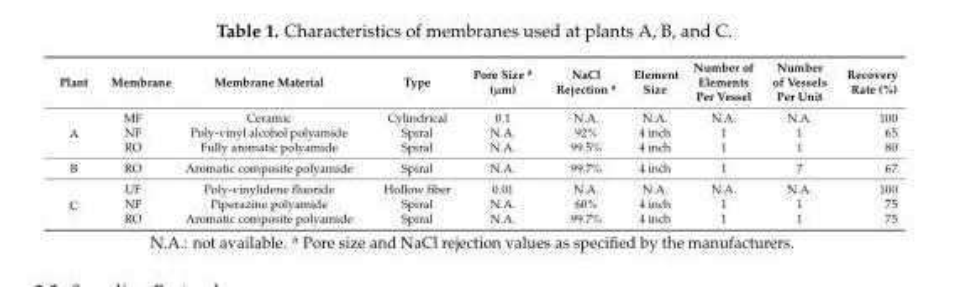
<table><thead><tr><td>Plant</td><td>Membrane</td><td>Membrane Material</td><td>Type</td><td>Pore Size <sup>a</sup> (µm)</td><td>NaCl Rejection <sup>a</sup></td><td>Element Size</td><td>Number of Elements Per Vessel</td><td>Number of Vessels Per Unit</td><td>Recovery Rate (%)</td></tr></thead><tbody><tr><td rowspan="3">A</td><td>MF</td><td>Ceramic</td><td>Cylindrical</td><td>0.1</td><td>N.A.</td><td>N.A.</td><td>N.A.</td><td>N.A.</td><td>100</td></tr><tr><td>NF</td><td>Poly-vinyl alcohol polyamide</td><td>Spiral</td><td>N.A.</td><td>92%</td><td>4 inch</td><td>1</td><td>1</td><td>65</td></tr><tr><td>RO</td><td>Fully aromatic polyamide</td><td>Spiral</td><td>N.A.</td><td>99.5%</td><td>4 inch</td><td>1</td><td>1</td><td>80</td></tr><tr><td>B</td><td>RO</td><td>Aromatic composite polyamide</td><td>Spiral</td><td>N.A.</td><td>99.7%</td><td>4 inch</td><td>1</td><td>7</td><td>67</td></tr><tr><td rowspan="3">C</td><td>UF</td><td>Poly-vinylidene fluoride</td><td>Hollow fiber</td><td>0.01</td><td>N.A.</td><td>N.A.</td><td>N.A.</td><td>N.A.</td><td>100</td></tr><tr><td>NF</td><td>Piperazine polyamide</td><td>Spiral</td><td>N.A.</td><td>60%</td><td>4 inch</td><td>1</td><td>1</td><td>75</td></tr><tr><td>RO</td><td>Aromatic composite polyamide</td><td>Spiral</td><td>N.A.</td><td>99.7%</td><td>4 inch</td><td>1</td><td>1</td><td>75</td></tr></tbody></table>